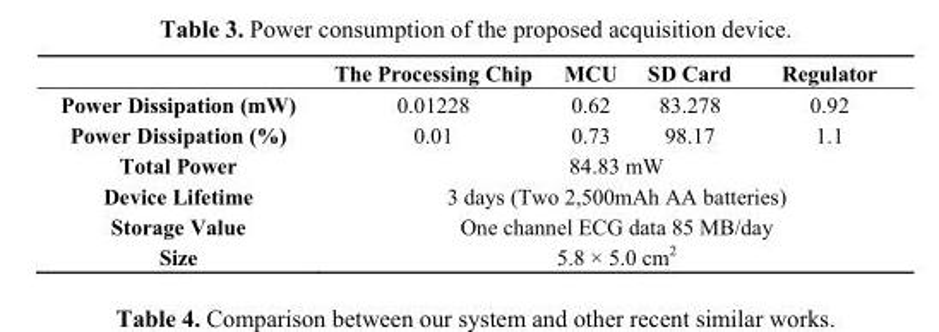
<table><thead><tr><td></td><td>The Processing Chip</td><td>MCU</td><td>SD Card</td><td>Regulator</td></tr></thead><tbody><tr><td>Power Dissipation (mW)</td><td>0.01228</td><td>0.62</td><td>83.278</td><td>0.92</td></tr><tr><td>Power Dissipation (%)</td><td>0.01</td><td>0.73</td><td>98.17</td><td>1.1</td></tr><tr><td>Total Power</td><td colspan="4">84.83 mW</td></tr><tr><td>Device Lifetime</td><td colspan="4">3 days (Two 2,500mAh AA batteries)</td></tr><tr><td>Storage Value</td><td colspan="4">One channel ECG data 85 MB/day</td></tr><tr><td>Size</td><td colspan="4">5.8 × 5.0 cm<sup>2</sup></td></tr></tbody></table>